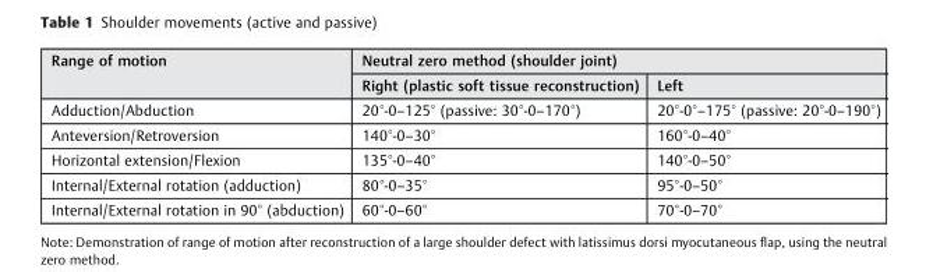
<table><thead><tr><td rowspan="2">Range of motion</td><td colspan="2">Neutral zero method (shoulder joint)</td></tr><tr><td>Right (plastic soft tissue reconstruction)</td><td>Left</td></tr></thead><tbody><tr><td>Adduction/Abduction</td><td>20°-0–125° (passive: 30°-0–170°)</td><td>20°-0°–175° (passive: 20°-0–190°)</td></tr><tr><td>Anteversion/Retroversion</td><td>140°-0–30°</td><td>160°-0–40°</td></tr><tr><td>Horizontal extension/Flexion</td><td>135°-0–40°</td><td>140°-0–50°</td></tr><tr><td>Internal/External rotation (adduction)</td><td>80°-0–35°</td><td>95°-0–50°</td></tr><tr><td>Internal/External rotation in 90° (abduction)</td><td>60°-0–60°</td><td>70°-0–70°</td></tr></tbody></table>